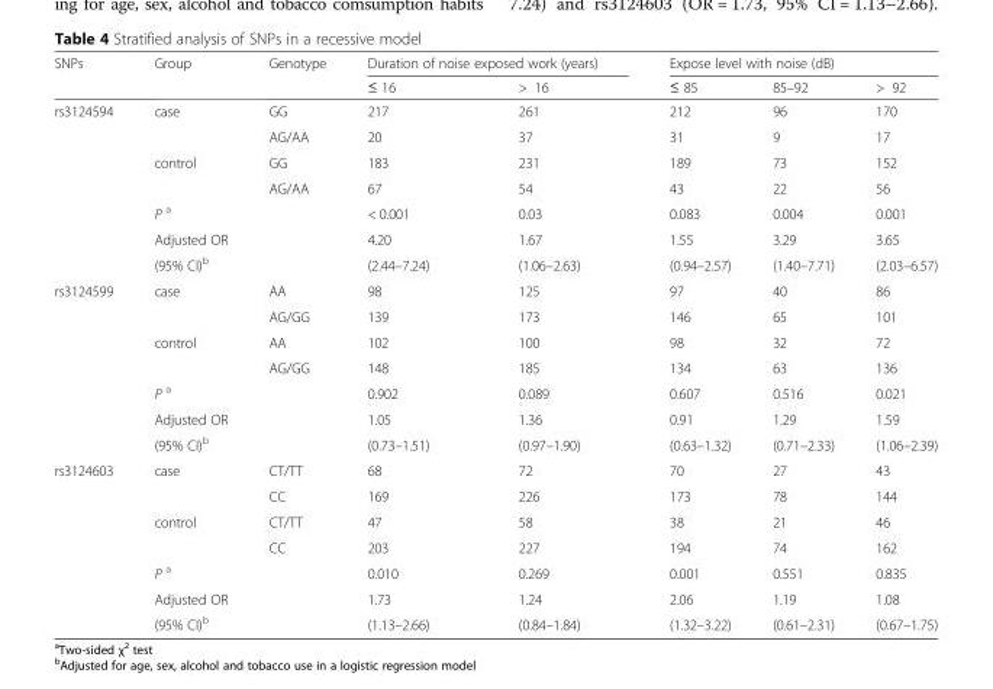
<table><thead><tr><td rowspan="2">SNPs</td><td rowspan="2">Group</td><td rowspan="2">Genotype</td><td colspan="2">Duration of noise exposed work (years)</td><td colspan="3">Expose level with noise (dB)</td></tr><tr><td>≤ 16</td><td>&gt; 16</td><td>≤ 85</td><td>85–92</td><td>&gt; 92</td></tr></thead><tbody><tr><td rowspan="7">rs3124594</td><td rowspan="2">case</td><td>GG</td><td>217</td><td>261</td><td>212</td><td>96</td><td>170</td></tr><tr><td>AG/AA</td><td>20</td><td>37</td><td>31</td><td>9</td><td>17</td></tr><tr><td rowspan="2">control</td><td>GG</td><td>183</td><td>231</td><td>189</td><td>73</td><td>152</td></tr><tr><td>AG/AA</td><td>67</td><td>54</td><td>43</td><td>22</td><td>56</td></tr><tr><td>P <sup>a</sup></td><td></td><td>&lt; 0.001</td><td>0.03</td><td>0.083</td><td>0.004</td><td>0.001</td></tr><tr><td>Adjusted OR</td><td></td><td>4.20</td><td>1.67</td><td>1.55</td><td>3.29</td><td>3.65</td></tr><tr><td>(95% CI)<sup>b</sup></td><td></td><td>(2.44–7.24)</td><td>(1.06–2.63)</td><td>(0.94–2.57)</td><td>(1.40–7.71)</td><td>(2.03–6.57)</td></tr><tr><td rowspan="7">rs3124599</td><td rowspan="2">case</td><td>AA</td><td>98</td><td>125</td><td>97</td><td>40</td><td>86</td></tr><tr><td>AG/GG</td><td>139</td><td>173</td><td>146</td><td>65</td><td>101</td></tr><tr><td rowspan="2">control</td><td>AA</td><td>102</td><td>100</td><td>98</td><td>32</td><td>72</td></tr><tr><td>AG/GG</td><td>148</td><td>185</td><td>134</td><td>63</td><td>136</td></tr><tr><td>P <sup>a</sup></td><td></td><td>0.902</td><td>0.089</td><td>0.607</td><td>0.516</td><td>0.021</td></tr><tr><td>Adjusted OR</td><td></td><td>1.05</td><td>1.36</td><td>0.91</td><td>1.29</td><td>1.59</td></tr><tr><td>(95% CI)<sup>b</sup></td><td></td><td>(0.73–1.51)</td><td>(0.97–1.90)</td><td>(0.63–1.32)</td><td>(0.71–2.33)</td><td>(1.06–2.39)</td></tr><tr><td rowspan="7">rs3124603</td><td rowspan="2">case</td><td>CT/TT</td><td>68</td><td>72</td><td>70</td><td>27</td><td>43</td></tr><tr><td>CC</td><td>169</td><td>226</td><td>173</td><td>78</td><td>144</td></tr><tr><td rowspan="2">control</td><td>CT/TT</td><td>47</td><td>58</td><td>38</td><td>21</td><td>46</td></tr><tr><td>CC</td><td>203</td><td>227</td><td>194</td><td>74</td><td>162</td></tr><tr><td>P <sup>a</sup></td><td></td><td>0.010</td><td>0.269</td><td>0.001</td><td>0.551</td><td>0.835</td></tr><tr><td>Adjusted OR</td><td></td><td>1.73</td><td>1.24</td><td>2.06</td><td>1.19</td><td>1.08</td></tr><tr><td>(95% CI)<sup>b</sup></td><td></td><td>(1.13–2.66)</td><td>(0.84–1.84)</td><td>(1.32–3.22)</td><td>(0.61–2.31)</td><td>(0.67–1.75)</td></tr></tbody></table>